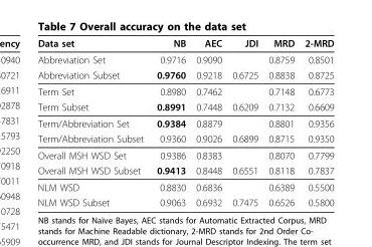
<table><thead><tr><td>Data set</td><td>NB</td><td>AEC</td><td>JDI</td><td>MRD</td><td>2-MRD</td></tr></thead><tbody><tr><td>Abbreviation Set</td><td>0.9716</td><td>0.9090</td><td></td><td>0.8759</td><td>0.8501</td></tr><tr><td>Abbreviation Subset</td><td>0.9760</td><td>0.9218</td><td>0.6725</td><td>0.8838</td><td>0.8725</td></tr><tr><td>Term Set</td><td>0.8980</td><td>0.7462</td><td></td><td>0.7148</td><td>0.6773</td></tr><tr><td>Term Subset</td><td>0.8991</td><td>0.7448</td><td>0.6209</td><td>0.7132</td><td>0.6609</td></tr><tr><td>Term/Abbreviation Set</td><td>0.9384</td><td>0.8879</td><td></td><td>0.8801</td><td>0.9356</td></tr><tr><td>Term/Abbreviation Subset</td><td>0.9360</td><td>0.9026</td><td>0.6899</td><td>0.8715</td><td>0.9350</td></tr><tr><td>Overall MSH WSD Set</td><td>0.9386</td><td>0.8383</td><td></td><td>0.8070</td><td>0.7799</td></tr><tr><td>Overall MSH WSD Subset</td><td>0.9413</td><td>0.8448</td><td>0.6551</td><td>0.8118</td><td>0.7837</td></tr><tr><td>NLM WSD</td><td>0.8830</td><td>0.6836</td><td></td><td>0.6389</td><td>0.5500</td></tr><tr><td>NLM WSD Subset</td><td>0.9063</td><td>0.6932</td><td>0.7475</td><td>0.6526</td><td>0.5800</td></tr></tbody></table>